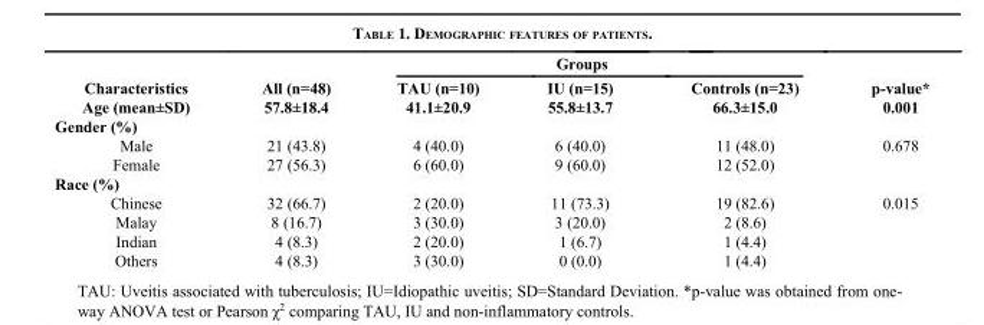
<table><thead><tr><td rowspan="2">Characteristics</td><td rowspan="2">All (n=48)</td><td colspan="3">Groups</td><td rowspan="2">p-value*</td></tr><tr><td>TAU (n=10)</td><td>IU (n=15)</td><td>Controls (n=23)</td></tr></thead><tbody><tr><td>Age (mean±SD)</td><td>57.8±18.4</td><td>41.1±20.9</td><td>55.8±13.7</td><td>66.3±15.0</td><td>0.001</td></tr><tr><td colspan="6">Gender (%)</td></tr><tr><td>Male</td><td>21 (43.8)</td><td>4 (40.0)</td><td>6 (40.0)</td><td>11 (48.0)</td><td>0.678</td></tr><tr><td>Female</td><td>27 (56.3)</td><td>6 (60.0)</td><td>9 (60.0)</td><td>12 (52.0)</td><td></td></tr><tr><td colspan="6">Race (%)</td></tr><tr><td>Chinese</td><td>32 (66.7)</td><td>2 (20.0)</td><td>11 (73.3)</td><td>19 (82.6)</td><td>0.015</td></tr><tr><td>Malay</td><td>8 (16.7)</td><td>3 (30.0)</td><td>3 (20.0)</td><td>2 (8.6)</td><td></td></tr><tr><td>Indian</td><td>4 (8.3)</td><td>2 (20.0)</td><td>1 (6.7)</td><td>1 (4.4)</td><td></td></tr><tr><td>Others</td><td>4 (8.3)</td><td>3 (30.0)</td><td>0 (0.0)</td><td>1 (4.4)</td><td></td></tr></tbody></table>